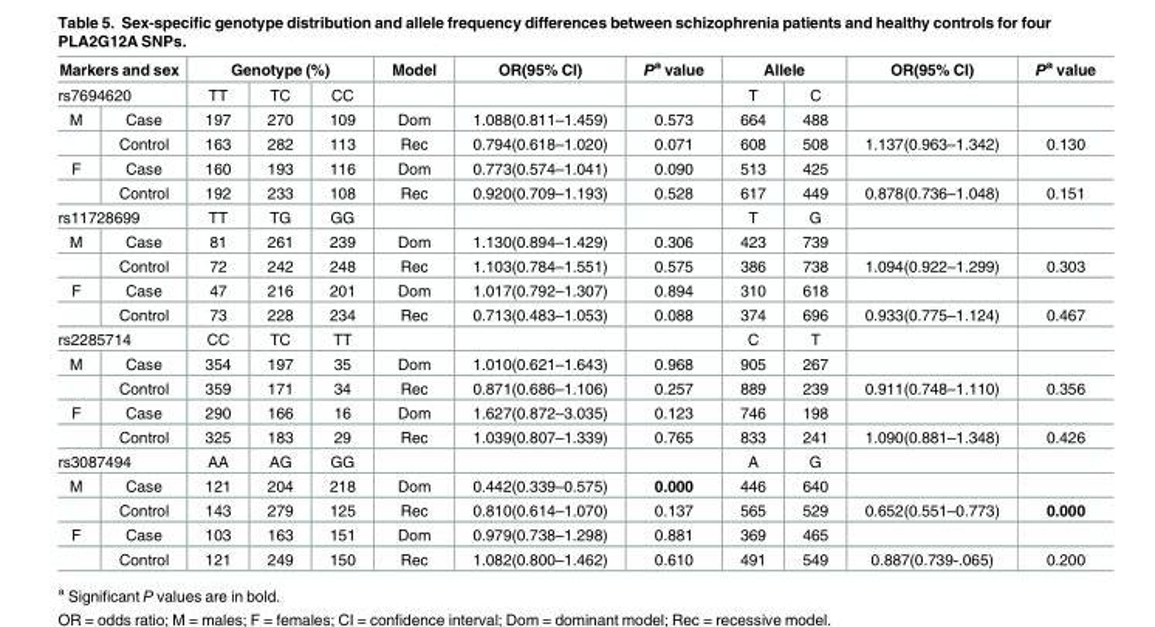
<table><thead><tr><td rowspan="2" colspan="2">Markers and sex rs7694620</td><td colspan="3">Genotype (%)</td><td rowspan="3">Model Dom</td><td rowspan="3">OR(95% CI) 1.088(0.811–1.459)</td><td rowspan="3">P<sup>a</sup> value 0.573</td><td colspan="2">Allele</td><td rowspan="3">OR(95% CI)</td><td rowspan="3">P<sup>a</sup> value</td></tr><tr><td rowspan="2">TT 197</td><td rowspan="2">TC 270</td><td rowspan="2">CC 109</td><td rowspan="2">T 664</td><td rowspan="2">C 488</td></tr><tr><td>M</td><td>Case</td></tr></thead><tbody><tr><td></td><td>Control</td><td>163</td><td>282</td><td>113</td><td>Rec</td><td>0.794(0.618–1.020)</td><td>0.071</td><td>608</td><td>508</td><td>1.137(0.963–1.342)</td><td>0.130</td></tr><tr><td rowspan="2">F</td><td>Case</td><td>160</td><td>193</td><td>116</td><td>Dom</td><td>0.773(0.574–1.041)</td><td>0.090</td><td>513</td><td>425</td><td></td><td></td></tr><tr><td>Control</td><td>192</td><td>233</td><td>108</td><td>Rec</td><td>0.920(0.709–1.193)</td><td>0.528</td><td>617</td><td>449</td><td>0.878(0.736–1.048)</td><td>0.151</td></tr><tr><td colspan="2">rs11728699</td><td>TT</td><td>TG</td><td>GG</td><td></td><td></td><td></td><td>T</td><td>G</td><td></td><td></td></tr><tr><td rowspan="2">M</td><td>Case</td><td>81</td><td>261</td><td>239</td><td>Dom</td><td>1.130(0.894–1.429)</td><td>0.306</td><td>423</td><td>739</td><td></td><td></td></tr><tr><td>Control</td><td>72</td><td>242</td><td>248</td><td>Rec</td><td>1.103(0.784–1.551)</td><td>0.575</td><td>386</td><td>738</td><td>1.094(0.922–1.299)</td><td>0.303</td></tr><tr><td rowspan="2">F</td><td>Case</td><td>47</td><td>216</td><td>201</td><td>Dom</td><td>1.017(0.792–1.307)</td><td>0.894</td><td>310</td><td>618</td><td></td><td></td></tr><tr><td>Control</td><td>73</td><td>228</td><td>234</td><td>Rec</td><td>0.713(0.483–1.053)</td><td>0.088</td><td>374</td><td>696</td><td>0.933(0.775–1.124)</td><td>0.467</td></tr><tr><td colspan="2">rs2285714</td><td>CC</td><td>TC</td><td>TT</td><td></td><td></td><td></td><td>C</td><td>T</td><td></td><td></td></tr><tr><td rowspan="2">M</td><td>Case</td><td>354</td><td>197</td><td>35</td><td>Dom</td><td>1.010(0.621–1.643)</td><td>0.968</td><td>905</td><td>267</td><td></td><td></td></tr><tr><td>Control</td><td>359</td><td>171</td><td>34</td><td>Rec</td><td>0.871(0.686–1.106)</td><td>0.257</td><td>889</td><td>239</td><td>0.911(0.748–1.110)</td><td>0.356</td></tr><tr><td rowspan="2">F</td><td>Case</td><td>290</td><td>166</td><td>16</td><td>Dom</td><td>1.627(0.872–3.035)</td><td>0.123</td><td>746</td><td>198</td><td></td><td></td></tr><tr><td>Control</td><td>325</td><td>183</td><td>29</td><td>Rec</td><td>1.039(0.807–1.339)</td><td>0.765</td><td>833</td><td>241</td><td>1.090(0.881–1.348)</td><td>0.426</td></tr><tr><td colspan="2">rs3087494</td><td>AA</td><td>AG</td><td>GG</td><td></td><td></td><td></td><td>A</td><td>G</td><td></td><td></td></tr><tr><td rowspan="2">M</td><td>Case</td><td>121</td><td>204</td><td>218</td><td>Dom</td><td>0.442(0.339–0.575)</td><td>0.000</td><td>446</td><td>640</td><td></td><td></td></tr><tr><td>Control</td><td>143</td><td>279</td><td>125</td><td>Rec</td><td>0.810(0.614–1.070)</td><td>0.137</td><td>565</td><td>529</td><td>0.652(0.551–0.773)</td><td>0.000</td></tr><tr><td rowspan="2">F</td><td>Case</td><td>103</td><td>163</td><td>151</td><td>Dom</td><td>0.979(0.738–1.298)</td><td>0.881</td><td>369</td><td>465</td><td></td><td></td></tr><tr><td>Control</td><td>121</td><td>249</td><td>150</td><td>Rec</td><td>1.082(0.800–1.462)</td><td>0.610</td><td>491</td><td>549</td><td>0.887(0.739-.065)</td><td>0.200</td></tr></tbody></table>